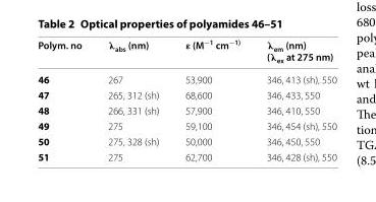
<table><thead><tr><td>Polym. no</td><td>λ<sub>abs</sub> (nm)</td><td>ε (M<sup>−1</sup> cm<sup>−1)</sup></td><td>λ<sub>em</sub> (nm) (λ<sub>ex</sub> at 275 nm)</td></tr></thead><tbody><tr><td>46</td><td>267</td><td>53,900</td><td>346, 413 (sh), 550</td></tr><tr><td>47</td><td>265, 312 (sh)</td><td>68,600</td><td>346, 433, 550</td></tr><tr><td>48</td><td>266, 331 (sh)</td><td>57,900</td><td>346, 410, 550</td></tr><tr><td>49</td><td>275</td><td>59,100</td><td>346, 454 (sh), 550</td></tr><tr><td>50</td><td>275, 328 (sh)</td><td>50,000</td><td>346, 450, 550</td></tr><tr><td>51</td><td>275</td><td>62,700</td><td>346, 428 (sh), 550</td></tr></tbody></table>